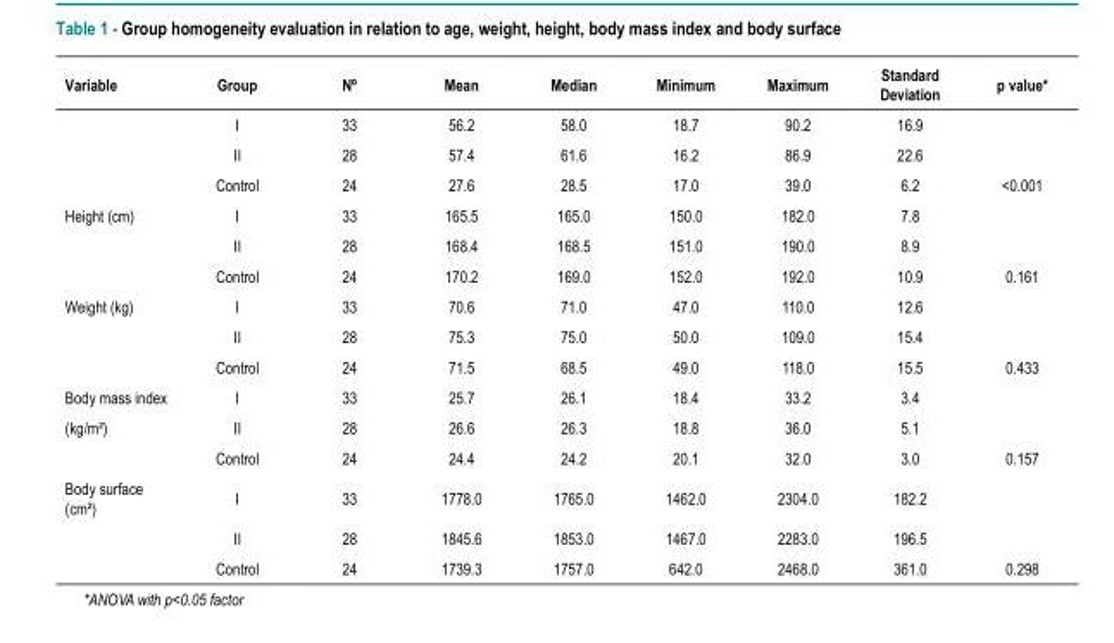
<table><thead><tr><td>Variable</td><td>Group</td><td>Nº</td><td>Mean</td><td>Median</td><td>Minimum</td><td>Maximum</td><td>Standard Deviation</td><td>p value*</td></tr></thead><tbody><tr><td></td><td>I</td><td>33</td><td>56.2</td><td>58.0</td><td>18.7</td><td>90.2</td><td>16.9</td><td></td></tr><tr><td></td><td>II</td><td>28</td><td>57.4</td><td>61.6</td><td>16.2</td><td>86.9</td><td>22.6</td><td></td></tr><tr><td></td><td>Control</td><td>24</td><td>27.6</td><td>28.5</td><td>17.0</td><td>39.0</td><td>6.2</td><td>&lt;0.001</td></tr><tr><td rowspan="3">Height (cm)</td><td>I</td><td>33</td><td>165.5</td><td>165.0</td><td>150.0</td><td>182.0</td><td>7.8</td><td></td></tr><tr><td>II</td><td>28</td><td>168.4</td><td>168.5</td><td>151.0</td><td>190.0</td><td>8.9</td><td></td></tr><tr><td>Control</td><td>24</td><td>170.2</td><td>169.0</td><td>152.0</td><td>192.0</td><td>10.9</td><td>0.161</td></tr><tr><td rowspan="3">Weight (kg)</td><td>I</td><td>33</td><td>70.6</td><td>71.0</td><td>47.0</td><td>110.0</td><td>12.6</td><td></td></tr><tr><td>II</td><td>28</td><td>75.3</td><td>75.0</td><td>50.0</td><td>109.0</td><td>15.4</td><td></td></tr><tr><td>Control</td><td>24</td><td>71.5</td><td>68.5</td><td>49.0</td><td>118.0</td><td>15.5</td><td>0.433</td></tr><tr><td>Body mass index</td><td>I</td><td>33</td><td>25.7</td><td>26.1</td><td>18.4</td><td>33.2</td><td>3.4</td><td></td></tr><tr><td rowspan="2">(kg/m²)</td><td>II</td><td>28</td><td>26.6</td><td>26.3</td><td>18.8</td><td>36.0</td><td>5.1</td><td></td></tr><tr><td>Control</td><td>24</td><td>24.4</td><td>24.2</td><td>20.1</td><td>32.0</td><td>3.0</td><td>0.157</td></tr><tr><td rowspan="3">Body surface (cm²)</td><td>I</td><td>33</td><td>1778.0</td><td>1765.0</td><td>1462.0</td><td>2304.0</td><td>182.2</td><td></td></tr><tr><td>II</td><td>28</td><td>1845.6</td><td>1853.0</td><td>1467.0</td><td>2283.0</td><td>196.5</td><td></td></tr><tr><td>Control</td><td>24</td><td>1739.3</td><td>1757.0</td><td>642.0</td><td>2468.0</td><td>361.0</td><td>0.298</td></tr></tbody></table>